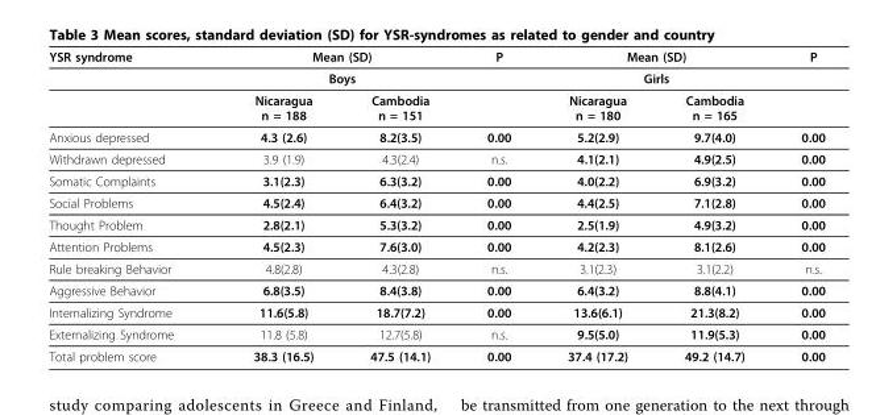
<table><thead><tr><td rowspan="3">YSR syndrome</td><td rowspan="2" colspan="2">Mean (SD) Boys</td><td rowspan="3">P</td><td rowspan="2" colspan="2">Mean (SD) Girls</td><td rowspan="3">P</td></tr><tr></tr><tr><td>Nicaragua n = 188</td><td>Cambodia n = 151</td><td>Nicaragua n = 180</td><td>Cambodia n = 165</td></tr></thead><tbody><tr><td>Anxious depressed</td><td>4.3 (2.6)</td><td>8.2(3.5)</td><td>0.00</td><td>5.2(2.9)</td><td>9.7(4.0)</td><td>0.00</td></tr><tr><td>Withdrawn depressed</td><td>3.9 (1.9)</td><td>4.3(2.4)</td><td>n.s.</td><td>4.1(2.1)</td><td>4.9(2.5)</td><td>0.00</td></tr><tr><td>Somatic Complaints</td><td>3.1(2.3)</td><td>6.3(3.2)</td><td>0.00</td><td>4.0(2.2)</td><td>6.9(3.2)</td><td>0.00</td></tr><tr><td>Social Problems</td><td>4.5(2.4)</td><td>6.4(3.2)</td><td>0.00</td><td>4.4(2.5)</td><td>7.1(2.8)</td><td>0.00</td></tr><tr><td>Thought Problem</td><td>2.8(2.1)</td><td>5.3(3.2)</td><td>0.00</td><td>2.5(1.9)</td><td>4.9(3.2)</td><td>0.00</td></tr><tr><td>Attention Problems</td><td>4.5(2.3)</td><td>7.6(3.0)</td><td>0.00</td><td>4.2(2.3)</td><td>8.1(2.6)</td><td>0.00</td></tr><tr><td>Rule breaking Behavior</td><td>4.8(2.8)</td><td>4.3(2.8)</td><td>n.s.</td><td>3.1(2.3)</td><td>3.1(2.2)</td><td>n.s.</td></tr><tr><td>Aggressive Behavior</td><td>6.8(3.5)</td><td>8.4(3.8)</td><td>0.00</td><td>6.4(3.2)</td><td>8.8(4.1)</td><td>0.00</td></tr><tr><td>Internalizing Syndrome</td><td>11.6(5.8)</td><td>18.7(7.2)</td><td>0.00</td><td>13.6(6.1)</td><td>21.3(8.2)</td><td>0.00</td></tr><tr><td>Externalizing Syndrome</td><td>11.8 (5.8)</td><td>12.7(5.8)</td><td>n.s.</td><td>9.5(5.0)</td><td>11.9(5.3)</td><td>0.00</td></tr><tr><td>Total problem score</td><td>38.3 (16.5)</td><td>47.5 (14.1)</td><td>0.00</td><td>37.4 (17.2)</td><td>49.2 (14.7)</td><td>0.00</td></tr></tbody></table>